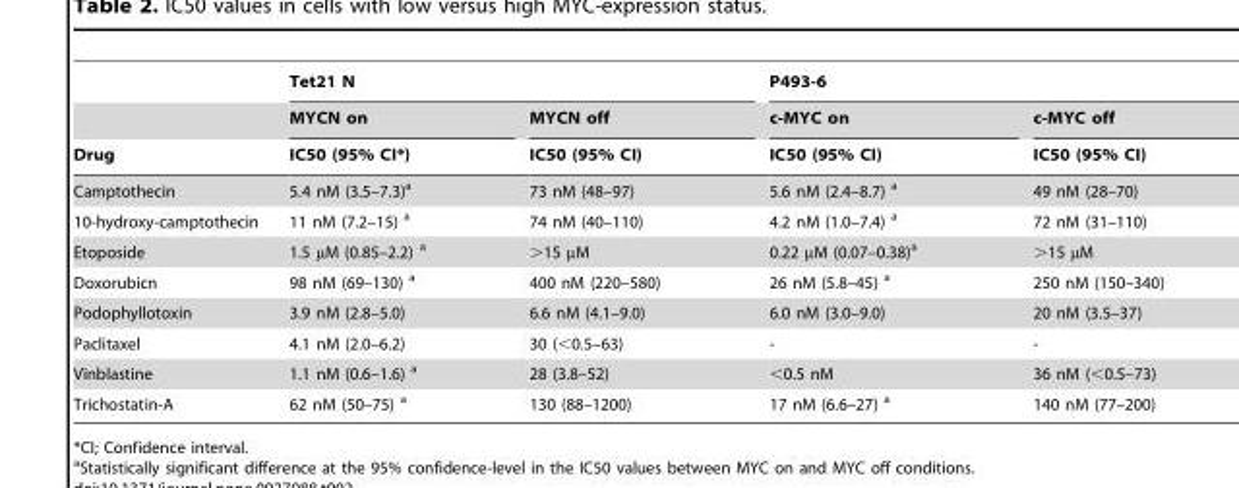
<table><thead><tr><td rowspan="3">Drug</td><td colspan="2">Tet21 N</td><td colspan="2">P493-6</td></tr><tr><td rowspan="2">MYCN on IC50 (95% CI*)</td><td rowspan="2">MYCN off IC50 (95% CI)</td><td rowspan="2">c-MYC on IC50 (95% CI)</td><td rowspan="2">c-MYC off IC50 (95% CI)</td></tr><tr></tr></thead><tbody><tr><td>Camptothecin</td><td>5.4 nM (3.5–7.3)<sup>a</sup></td><td>73 nM (48–97)</td><td>5.6 nM (2.4–8.7) a</td><td>49 nM (28–70)</td></tr><tr><td>10-hydroxy-camptothecin</td><td>11 nM (7.2–15) a</td><td>74 nM (40–110)</td><td>4.2 nM (1.0–7.4) a</td><td>72 nM (31–110)</td></tr><tr><td>Etoposide</td><td>1.5 µM (0.85–2.2) a</td><td>&gt;15 µM</td><td>0.22 µM (0.07–0.38)<sup>a</sup></td><td>&gt;15 µM</td></tr><tr><td>Doxorubicn</td><td>98 nM (69–130) a</td><td>400 nM (220–580)</td><td>26 nM (5.8–45) a</td><td>250 nM (150–340)</td></tr><tr><td>Podophyllotoxin</td><td>3.9 nM (2.8–5.0)</td><td>6.6 nM (4.1–9.0)</td><td>6.0 nM (3.0–9.0)</td><td>20 nM (3.5–37)</td></tr><tr><td>Paclitaxel</td><td>4.1 nM (2.0–6.2)</td><td>30 (&lt;0.5–63)</td><td>-</td><td>-</td></tr><tr><td>Vinblastine</td><td>1.1 nM (0.6–1.6) a</td><td>28 (3.8–52)</td><td>&lt;0.5 nM</td><td>36 nM (&lt;0.5–73)</td></tr><tr><td>Trichostatin-A</td><td>62 nM (50–75) a</td><td>130 (88–1200)</td><td>17 nM (6.6–27) a</td><td>140 nM (77–200)</td></tr></tbody></table>